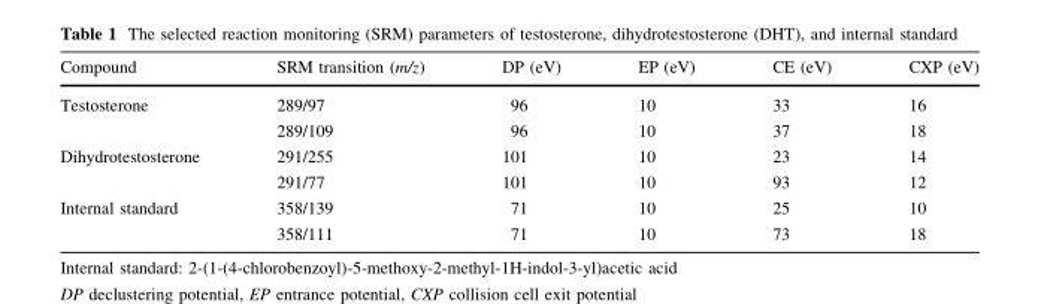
<table><thead><tr><td>Compound</td><td>SRM transition (m/z)</td><td>DP (eV)</td><td>EP (eV)</td><td>CE (eV)</td><td>CXP (eV)</td></tr></thead><tbody><tr><td rowspan="2">Testosterone</td><td>289/97</td><td>96</td><td>10</td><td>33</td><td>16</td></tr><tr><td>289/109</td><td>96</td><td>10</td><td>37</td><td>18</td></tr><tr><td rowspan="2">Dihydrotestosterone</td><td>291/255</td><td>101</td><td>10</td><td>23</td><td>14</td></tr><tr><td>291/77</td><td>101</td><td>10</td><td>93</td><td>12</td></tr><tr><td rowspan="2">Internal standard</td><td>358/139</td><td>71</td><td>10</td><td>25</td><td>10</td></tr><tr><td>358/111</td><td>71</td><td>10</td><td>73</td><td>18</td></tr></tbody></table>